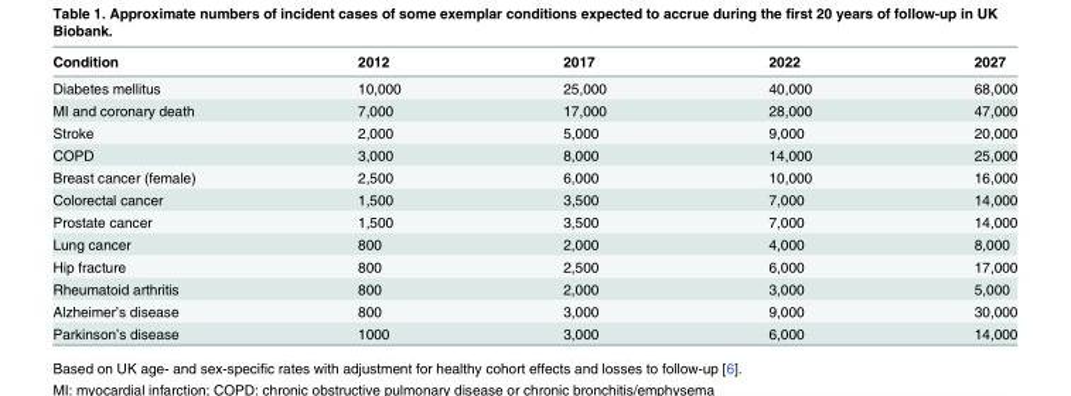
<table><thead><tr><td>Condition</td><td>2012</td><td>2017</td><td>2022</td><td>2027</td></tr></thead><tbody><tr><td>Diabetes mellitus</td><td>10,000</td><td>25,000</td><td>40,000</td><td>68,000</td></tr><tr><td>MI and coronary death</td><td>7,000</td><td>17,000</td><td>28,000</td><td>47,000</td></tr><tr><td>Stroke</td><td>2,000</td><td>5,000</td><td>9,000</td><td>20,000</td></tr><tr><td>COPD</td><td>3,000</td><td>8,000</td><td>14,000</td><td>25,000</td></tr><tr><td>Breast cancer (female)</td><td>2,500</td><td>6,000</td><td>10,000</td><td>16,000</td></tr><tr><td>Colorectal cancer</td><td>1,500</td><td>3,500</td><td>7,000</td><td>14,000</td></tr><tr><td>Prostate cancer</td><td>1,500</td><td>3,500</td><td>7,000</td><td>14,000</td></tr><tr><td>Lung cancer</td><td>800</td><td>2,000</td><td>4,000</td><td>8,000</td></tr><tr><td>Hip fracture</td><td>800</td><td>2,500</td><td>6,000</td><td>17,000</td></tr><tr><td>Rheumatoid arthritis</td><td>800</td><td>2,000</td><td>3,000</td><td>5,000</td></tr><tr><td>Alzheimer’s disease</td><td>800</td><td>3,000</td><td>9,000</td><td>30,000</td></tr><tr><td>Parkinson’s disease</td><td>1000</td><td>3,000</td><td>6,000</td><td>14,000</td></tr></tbody></table>